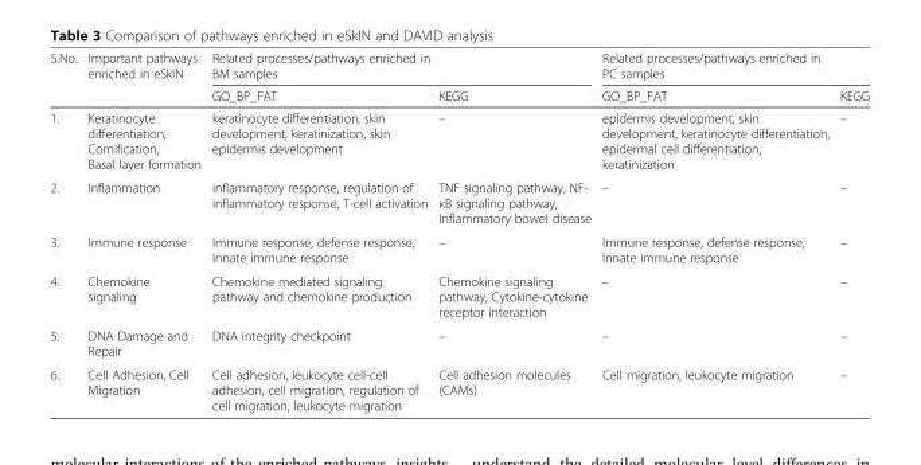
<table><thead><tr><td rowspan="2">S.No.</td><td rowspan="2">Important pathways enriched in eSkIN</td><td colspan="2">Related processes/pathways enriched in BM samples</td><td colspan="2">Related processes/pathways enriched in PC samples</td></tr><tr><td>GO_BP_FAT</td><td>KEGG</td><td>GO_BP_FAT</td><td>KEGG</td></tr></thead><tbody><tr><td>1.</td><td>Keratinocyte differentiation, Cornification, Basal layer formation</td><td>keratinocyte differentiation, skin development, keratinization, skin epidermis development</td><td>–</td><td>epidermis development, skin development, keratinocyte differentiation, epidermal cell differentiation, keratinization</td><td>–</td></tr><tr><td>2.</td><td>Inflammation</td><td>inflammatory response, regulation of inflammatory response, T-cell activation</td><td>TNF signaling pathway, NF- κB signaling pathway, Inflammatory bowel disease</td><td>–</td><td>–</td></tr><tr><td>3.</td><td>Immune response</td><td>Immune response, defense response, Innate immune response</td><td>–</td><td>Immune response, defense response, Innate immune response</td><td>–</td></tr><tr><td>4.</td><td>Chemokine signaling</td><td>Chemokine mediated signaling pathway and chemokine production</td><td>Chemokine signaling pathway, Cytokine-cytokine receptor interaction</td><td>–</td><td>–</td></tr><tr><td>5.</td><td>DNA Damage and Repair</td><td>DNA integrity checkpoint</td><td>–</td><td>–</td><td>–</td></tr><tr><td>6.</td><td>Cell Adhesion, Cell Migration</td><td>Cell adhesion, leukocyte cell-cell adhesion, cell migration, regulation of cell migration, leukocyte migration</td><td>Cell adhesion molecules (CAMs)</td><td>Cell migration, leukocyte migration</td><td>–</td></tr></tbody></table>